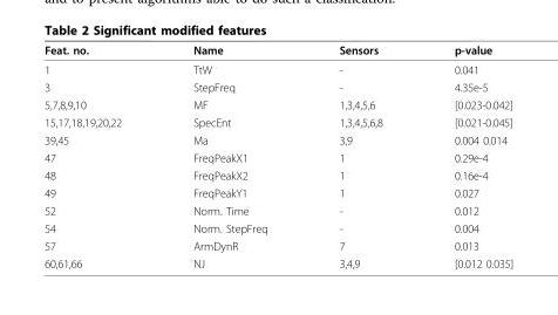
<table><thead><tr><td>Feat. no.</td><td>Name</td><td>Sensors</td><td>p-value</td></tr></thead><tbody><tr><td>1</td><td>TtW</td><td>-</td><td>0.041</td></tr><tr><td>3</td><td>StepFreq</td><td>-</td><td>4.35e-5</td></tr><tr><td>5,7,8,9,10</td><td>MF</td><td>1,3,4,5,6</td><td>[0.023-0.042]</td></tr><tr><td>15,17,18,19,20,22</td><td>SpecEnt</td><td>1,3,4,5,6,8</td><td>[0.021-0.045]</td></tr><tr><td>39,45</td><td>Ma</td><td>3,9</td><td>0.004 0.014</td></tr><tr><td>47</td><td>FreqPeakX1</td><td>1</td><td>0.29e-4</td></tr><tr><td>48</td><td>FreqPeakX2</td><td>1</td><td>0.16e-4</td></tr><tr><td>49</td><td>FreqPeakY1</td><td>1</td><td>0.027</td></tr><tr><td>52</td><td>Norm. Time</td><td>-</td><td>0.012</td></tr><tr><td>54</td><td>Norm. StepFreq</td><td>-</td><td>0.004</td></tr><tr><td>57</td><td>ArmDynR</td><td>7</td><td>0.013</td></tr><tr><td>60,61,66</td><td>NJ</td><td>3,4,9</td><td>[0.012 0.035]</td></tr></tbody></table>